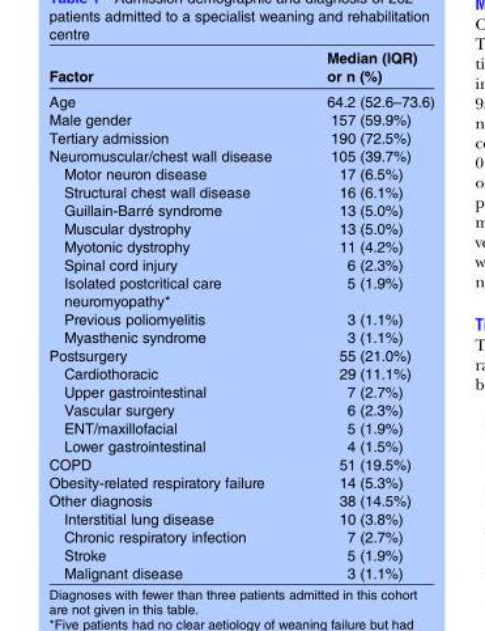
<table><thead><tr><td>Factor</td><td>Median (IQR) or n (%)</td></tr></thead><tbody><tr><td>Age</td><td>64.2 (52.6–73.6)</td></tr><tr><td>Male gender</td><td>157 (59.9%)</td></tr><tr><td>Tertiary admission</td><td>190 (72.5%)</td></tr><tr><td>Neuromuscular/chest wall disease</td><td>105 (39.7%)</td></tr><tr><td>Motor neuron disease</td><td>17 (6.5%)</td></tr><tr><td>Structural chest wall disease</td><td>16 (6.1%)</td></tr><tr><td>Guillain-Barré syndrome</td><td>13 (5.0%)</td></tr><tr><td>Muscular dystrophy</td><td>13 (5.0%)</td></tr><tr><td>Myotonic dystrophy</td><td>11 (4.2%)</td></tr><tr><td>Spinal cord injury</td><td>6 (2.3%)</td></tr><tr><td>Isolated postcritical care neuromyopathy*</td><td>5 (1.9%)</td></tr><tr><td>Previous poliomyelitis</td><td>3 (1.1%)</td></tr><tr><td>Myasthenic syndrome</td><td>3 (1.1%)</td></tr><tr><td>Postsurgery</td><td>55 (21.0%)</td></tr><tr><td>Cardiothoracic</td><td>29 (11.1%)</td></tr><tr><td>Upper gastrointestinal</td><td>7 (2.7%)</td></tr><tr><td>Vascular surgery</td><td>6 (2.3%)</td></tr><tr><td>ENT/maxillofacial</td><td>5 (1.9%)</td></tr><tr><td>Lower gastrointestinal</td><td>4 (1.5%)</td></tr><tr><td>COPD</td><td>51 (19.5%)</td></tr><tr><td>Obesity-related respiratory failure</td><td>14 (5.3%)</td></tr><tr><td>Other diagnosis</td><td>38 (14.5%)</td></tr><tr><td>Interstitial lung disease</td><td>10 (3.8%)</td></tr><tr><td>Chronic respiratory infection</td><td>7 (2.7%)</td></tr><tr><td>Stroke</td><td>5 (1.9%)</td></tr><tr><td>Malignant disease</td><td>3 (1.1%)</td></tr></tbody></table>